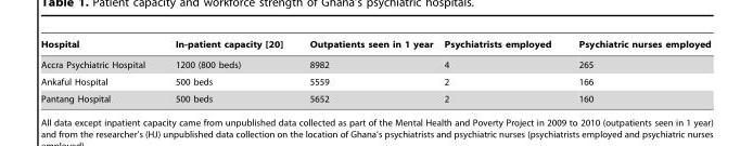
<table><thead><tr><td>Hospital</td><td>In-patient capacity [20]</td><td>Outpatients seen in 1 year</td><td>Psychiatrists employed</td><td>Psychiatric nurses employed</td></tr></thead><tbody><tr><td>Accra Psychiatric Hospital</td><td>1200 (800 beds)</td><td>8982</td><td>4</td><td>265</td></tr><tr><td>Ankaful Hospital</td><td>500 beds</td><td>5559</td><td>2</td><td>166</td></tr><tr><td>Pantang Hospital</td><td>500 beds</td><td>5652</td><td>2</td><td>160</td></tr></tbody></table>